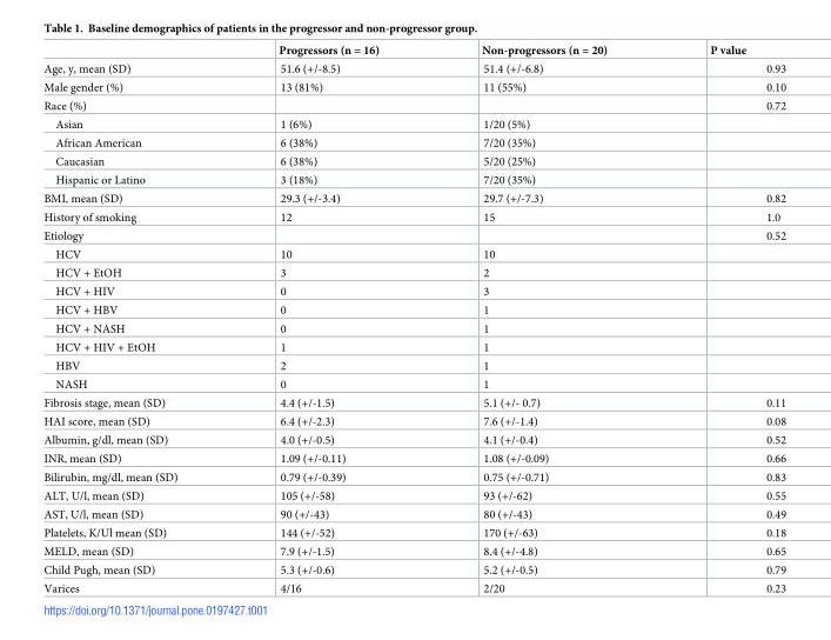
<table><thead><tr><td></td><td>Progressors (n = 16)</td><td>Non-progressors (n = 20)</td><td>P value</td></tr></thead><tbody><tr><td>Age, y, mean (SD)</td><td>51.6 (+/-8.5)</td><td>51.4 (+/-6.8)</td><td>0.93</td></tr><tr><td>Male gender (%)</td><td>13 (81%)</td><td>11 (55%)</td><td>0.10</td></tr><tr><td>Race (%)</td><td></td><td></td><td>0.72</td></tr><tr><td>Asian</td><td>1 (6%)</td><td>1/20 (5%)</td><td></td></tr><tr><td>African American</td><td>6 (38%)</td><td>7/20 (35%)</td><td></td></tr><tr><td>Caucasian</td><td>6 (38%)</td><td>5/20 (25%)</td><td></td></tr><tr><td>Hispanic or Latino</td><td>3 (18%)</td><td>7/20 (35%)</td><td></td></tr><tr><td>BMI, mean (SD)</td><td>29.3 (+/-3.4)</td><td>29.7 (+/-7.3)</td><td>0.82</td></tr><tr><td>History of smoking</td><td>12</td><td>15</td><td>1.0</td></tr><tr><td>Etiology</td><td></td><td></td><td>0.52</td></tr><tr><td>HCV</td><td>10</td><td>10</td><td></td></tr><tr><td>HCV + EtOH</td><td>3</td><td>2</td><td></td></tr><tr><td>HCV + HIV</td><td>0</td><td>3</td><td></td></tr><tr><td>HCV + HBV</td><td>0</td><td>1</td><td></td></tr><tr><td>HCV + NASH</td><td>0</td><td>1</td><td></td></tr><tr><td>HCV + HIV + EtOH</td><td>1</td><td>1</td><td></td></tr><tr><td>HBV</td><td>2</td><td>1</td><td></td></tr><tr><td>NASH</td><td>0</td><td>1</td><td></td></tr><tr><td>Fibrosis stage, mean (SD)</td><td>4.4 (+/-1.5)</td><td>5.1 (+/- 0.7)</td><td>0.11</td></tr><tr><td>HAI score, mean (SD)</td><td>6.4 (+/-2.3)</td><td>7.6 (+/-1.4)</td><td>0.08</td></tr><tr><td>Albumin, g/dl, mean (SD)</td><td>4.0 (+/-0.5)</td><td>4.1 (+/-0.4)</td><td>0.52</td></tr><tr><td>INR, mean (SD)</td><td>1.09 (+/-0.11)</td><td>1.08 (+/-0.09)</td><td>0.66</td></tr><tr><td>Bilirubin, mg/dl, mean (SD)</td><td>0.79 (+/-0.39)</td><td>0.75 (+/-0.71)</td><td>0.83</td></tr><tr><td>ALT, U/l, mean (SD)</td><td>105 (+/-58)</td><td>93 (+/-62)</td><td>0.55</td></tr><tr><td>AST, U/l, mean (SD)</td><td>90 (+/-43)</td><td>80 (+/-43)</td><td>0.49</td></tr><tr><td>Platelets, K/Ul mean (SD)</td><td>144 (+/-52)</td><td>170 (+/-63)</td><td>0.18</td></tr><tr><td>MELD, mean (SD)</td><td>7.9 (+/-1.5)</td><td>8.4 (+/-4.8)</td><td>0.65</td></tr><tr><td>Child Pugh, mean (SD)</td><td>5.3 (+/-0.6)</td><td>5.2 (+/-0.5)</td><td>0.79</td></tr><tr><td>Varices</td><td>4/16</td><td>2/20</td><td>0.23</td></tr></tbody></table>